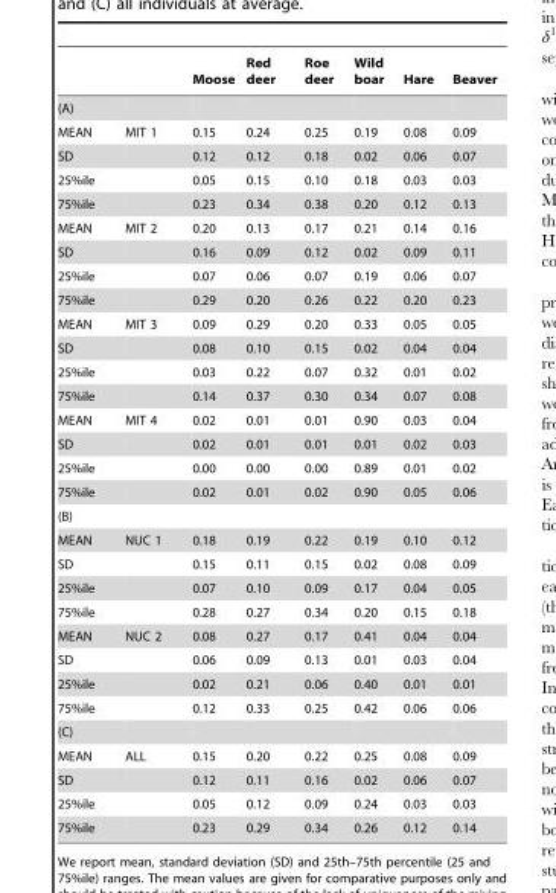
<table><thead><tr><td></td><td></td><td>Moose</td><td>Red deer</td><td>Roe deer</td><td>Wild boar</td><td>Hare</td><td>Beaver</td></tr></thead><tbody><tr><td colspan="8">(A)</td></tr><tr><td>MEAN</td><td>MIT 1</td><td>0.15</td><td>0.24</td><td>0.25</td><td>0.19</td><td>0.08</td><td>0.09</td></tr><tr><td>SD</td><td></td><td>0.12</td><td>0.12</td><td>0.18</td><td>0.02</td><td>0.06</td><td>0.07</td></tr><tr><td>25%ile</td><td></td><td>0.05</td><td>0.15</td><td>0.10</td><td>0.18</td><td>0.03</td><td>0.03</td></tr><tr><td>75%ile</td><td></td><td>0.23</td><td>0.34</td><td>0.38</td><td>0.20</td><td>0.12</td><td>0.13</td></tr><tr><td>MEAN</td><td>MIT 2</td><td>0.20</td><td>0.13</td><td>0.17</td><td>0.21</td><td>0.14</td><td>0.16</td></tr><tr><td>SD</td><td></td><td>0.16</td><td>0.09</td><td>0.12</td><td>0.02</td><td>0.09</td><td>0.11</td></tr><tr><td>25%ile</td><td></td><td>0.07</td><td>0.06</td><td>0.07</td><td>0.19</td><td>0.06</td><td>0.07</td></tr><tr><td>75%ile</td><td></td><td>0.29</td><td>0.20</td><td>0.26</td><td>0.22</td><td>0.20</td><td>0.23</td></tr><tr><td>MEAN</td><td>MIT 3</td><td>0.09</td><td>0.29</td><td>0.20</td><td>0.33</td><td>0.05</td><td>0.05</td></tr><tr><td>SD</td><td></td><td>0.08</td><td>0.10</td><td>0.15</td><td>0.02</td><td>0.04</td><td>0.04</td></tr><tr><td>25%ile</td><td></td><td>0.03</td><td>0.22</td><td>0.07</td><td>0.32</td><td>0.01</td><td>0.02</td></tr><tr><td>75%ile</td><td></td><td>0.14</td><td>0.37</td><td>0.30</td><td>0.34</td><td>0.07</td><td>0.08</td></tr><tr><td>MEAN</td><td>MIT 4</td><td>0.02</td><td>0.01</td><td>0.01</td><td>0.90</td><td>0.03</td><td>0.04</td></tr><tr><td>SD</td><td></td><td>0.02</td><td>0.01</td><td>0.01</td><td>0.01</td><td>0.02</td><td>0.03</td></tr><tr><td>25%ile</td><td></td><td>0.00</td><td>0.00</td><td>0.00</td><td>0.89</td><td>0.01</td><td>0.02</td></tr><tr><td>75%ile</td><td></td><td>0.02</td><td>0.01</td><td>0.02</td><td>0.90</td><td>0.05</td><td>0.06</td></tr><tr><td colspan="8">(B)</td></tr><tr><td>MEAN</td><td>NUC 1</td><td>0.18</td><td>0.19</td><td>0.22</td><td>0.19</td><td>0.10</td><td>0.12</td></tr><tr><td>SD</td><td></td><td>0.15</td><td>0.11</td><td>0.15</td><td>0.02</td><td>0.08</td><td>0.09</td></tr><tr><td>25%ile</td><td></td><td>0.07</td><td>0.10</td><td>0.09</td><td>0.17</td><td>0.04</td><td>0.05</td></tr><tr><td>75%ile</td><td></td><td>0.28</td><td>0.27</td><td>0.34</td><td>0.20</td><td>0.15</td><td>0.18</td></tr><tr><td>MEAN</td><td>NUC 2</td><td>0.08</td><td>0.27</td><td>0.17</td><td>0.41</td><td>0.04</td><td>0.04</td></tr><tr><td>SD</td><td></td><td>0.06</td><td>0.09</td><td>0.13</td><td>0.01</td><td>0.03</td><td>0.04</td></tr><tr><td>25%ile</td><td></td><td>0.02</td><td>0.21</td><td>0.06</td><td>0.40</td><td>0.01</td><td>0.01</td></tr><tr><td>75%ile</td><td></td><td>0.12</td><td>0.33</td><td>0.25</td><td>0.42</td><td>0.06</td><td>0.06</td></tr><tr><td colspan="8">(C)</td></tr><tr><td>MEAN</td><td>ALL</td><td>0.15</td><td>0.20</td><td>0.22</td><td>0.25</td><td>0.08</td><td>0.09</td></tr><tr><td>SD</td><td></td><td>0.12</td><td>0.11</td><td>0.16</td><td>0.02</td><td>0.06</td><td>0.07</td></tr><tr><td>25%ile</td><td></td><td>0.05</td><td>0.12</td><td>0.09</td><td>0.24</td><td>0.03</td><td>0.03</td></tr><tr><td>75%ile</td><td></td><td>0.23</td><td>0.29</td><td>0.34</td><td>0.26</td><td>0.12</td><td>0.14</td></tr></tbody></table>